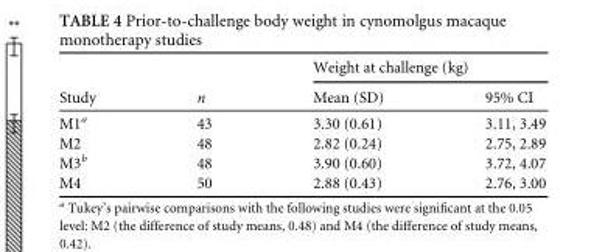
<table><thead><tr><td rowspan="2">Study</td><td rowspan="2">n</td><td colspan="2">Weight at challenge (kg)</td></tr><tr><td>Mean (SD)</td><td>95% CI</td></tr></thead><tbody><tr><td>M1<sup>a</sup></td><td>43</td><td>3.30 (0.61)</td><td>3.11, 3.49</td></tr><tr><td>M2</td><td>48</td><td>2.82 (0.24)</td><td>2.75, 2.89</td></tr><tr><td>M3<sup>b</sup></td><td>48</td><td>3.90 (0.60)</td><td>3.72, 4.07</td></tr><tr><td>M4</td><td>50</td><td>2.88 (0.43)</td><td>2.76, 3.00</td></tr></tbody></table>